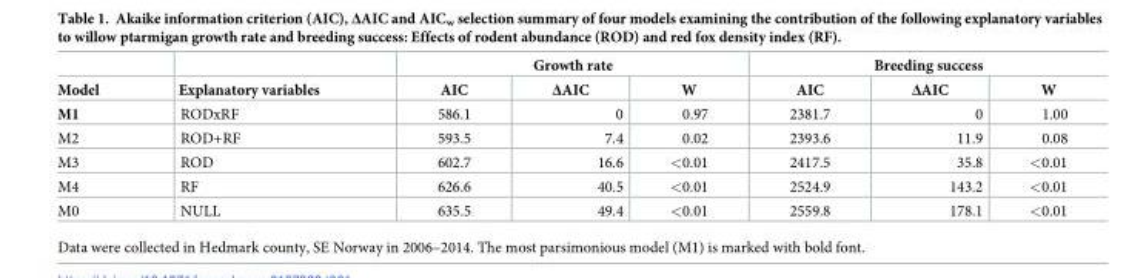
<table><thead><tr><td rowspan="2">Model</td><td rowspan="2">Explanatory variables</td><td colspan="3">Growth rate</td><td colspan="3">Breeding success</td></tr><tr><td>AIC</td><td>ΔAIC</td><td>W</td><td>AIC</td><td>ΔAIC</td><td>W</td></tr></thead><tbody><tr><td>M1</td><td>RODxRF</td><td>586.1</td><td>0</td><td>0.97</td><td>2381.7</td><td>0</td><td>1.00</td></tr><tr><td>M2</td><td>ROD+RF</td><td>593.5</td><td>7.4</td><td>0.02</td><td>2393.6</td><td>11.9</td><td>0.08</td></tr><tr><td>M3</td><td>ROD</td><td>602.7</td><td>16.6</td><td>&lt;0.01</td><td>2417.5</td><td>35.8</td><td>&lt;0.01</td></tr><tr><td>M4</td><td>RF</td><td>626.6</td><td>40.5</td><td>&lt;0.01</td><td>2524.9</td><td>143.2</td><td>&lt;0.01</td></tr><tr><td>M0</td><td>NULL</td><td>635.5</td><td>49.4</td><td>&lt;0.01</td><td>2559.8</td><td>178.1</td><td>&lt;0.01</td></tr></tbody></table>